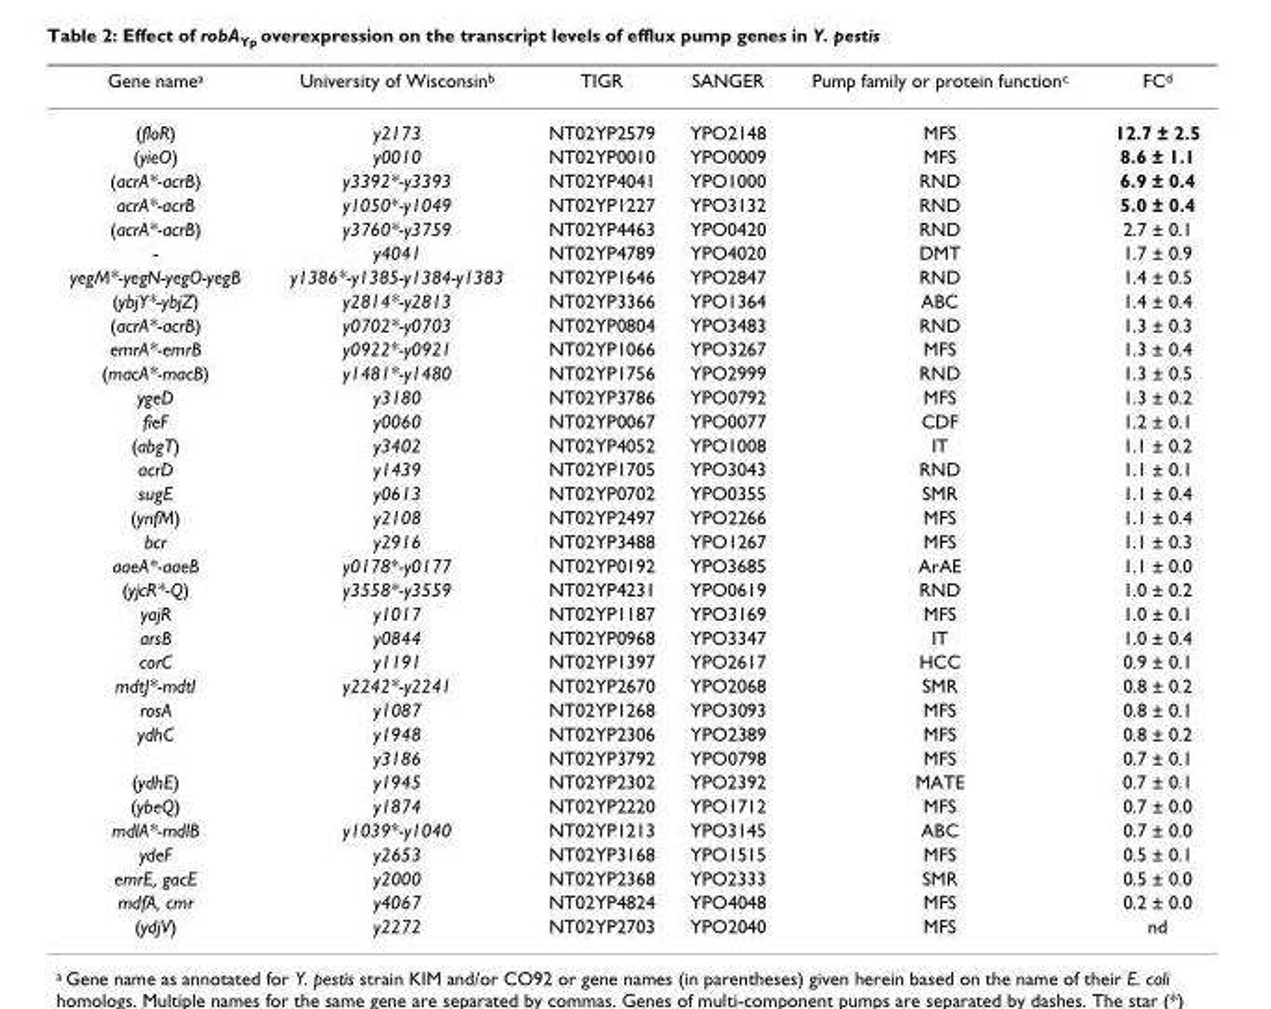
<table><thead><tr><td>Gene name<sup>a</sup></td><td>University of Wisconsin<sup>b</sup></td><td>TIGR</td><td>SANGER</td><td>Pump family or protein function<sup>c</sup></td><td>FC<sup>d</sup></td></tr></thead><tbody><tr><td>(floR)</td><td>y2173</td><td>NT02YP2579</td><td>YPO2148</td><td>MFS</td><td>12.7 ± 2.5</td></tr><tr><td>(yieO)</td><td>y0010</td><td>NT02YP0010</td><td>YPO0009</td><td>MFS</td><td>8.6 ± 1.1</td></tr><tr><td>(acrA*-acrB)</td><td>y3392*-y3393</td><td>NT02YP4041</td><td>YPO1000</td><td>RND</td><td>6.9 ± 0.4</td></tr><tr><td>acrA*-acrB</td><td>y1050*-y1049</td><td>NT02YP1227</td><td>YPO3132</td><td>RND</td><td>5.0 ± 0.4</td></tr><tr><td>(acrA*-acrB)</td><td>y3760*-y3759</td><td>NT02YP4463</td><td>YPO0420</td><td>RND</td><td>2.7 ± 0.1</td></tr><tr><td>-</td><td>y4041</td><td>NT02YP4789</td><td>YPO4020</td><td>DMT</td><td>1.7 ± 0.9</td></tr><tr><td>yegM*-yegN-yegO-yegB</td><td>y1386*-y1385-y1384-y1383</td><td>NT02YP1646</td><td>YPO2847</td><td>RND</td><td>1.4 ± 0.5</td></tr><tr><td>(ybjY*-ybjZ)</td><td>y2814*-y2813</td><td>NT02YP3366</td><td>YPO1364</td><td>ABC</td><td>1.4 ± 0.4</td></tr><tr><td>(acrA*-acrB)</td><td>y0702*-y0703</td><td>NT02YP0804</td><td>YPO3483</td><td>RND</td><td>1.3 ± 0.3</td></tr><tr><td>emrA*-emrB</td><td>y0922*-y0921</td><td>NT02YP1066</td><td>YPO3267</td><td>MFS</td><td>1.3 ± 0.4</td></tr><tr><td>(macA*-macB)</td><td>y1481*-y1480</td><td>NT02YP1756</td><td>YPO2999</td><td>RND</td><td>1.3 ± 0.5</td></tr><tr><td>ygeD</td><td>y3180</td><td>NT02YP3786</td><td>YPO0792</td><td>MFS</td><td>1.3 ± 0.2</td></tr><tr><td>fieF</td><td>y0060</td><td>NT02YP0067</td><td>YPO0077</td><td>CDF</td><td>1.2 ± 0.1</td></tr><tr><td>(abgT)</td><td>y3402</td><td>NT02YP4052</td><td>YPO1008</td><td>IT</td><td>1.1 ± 0.2</td></tr><tr><td>acrD</td><td>y1439</td><td>NT02YP1705</td><td>YPO3043</td><td>RND</td><td>1.1 ± 0.1</td></tr><tr><td>sugE</td><td>y0613</td><td>NT02YP0702</td><td>YPO0355</td><td>SMR</td><td>1.1 ± 0.4</td></tr><tr><td>(ynfM)</td><td>y2108</td><td>NT02YP2497</td><td>YPO2266</td><td>MFS</td><td>1.1 ± 0.4</td></tr><tr><td>bcr</td><td>y2916</td><td>NT02YP3488</td><td>YPO1267</td><td>MFS</td><td>1.1 ± 0.3</td></tr><tr><td>aaeA*-aaeB</td><td>y0178*-y0177</td><td>NT02YP0192</td><td>YPO3685</td><td>ArAE</td><td>1.1 ± 0.0</td></tr><tr><td>(yjcR*-Q)</td><td>y3558*-y3559</td><td>NT02YP4231</td><td>YPO0619</td><td>RND</td><td>1.0 ± 0.2</td></tr><tr><td>yajR</td><td>y1017</td><td>NT02YP1187</td><td>YPO3169</td><td>MFS</td><td>1.0 ± 0.1</td></tr><tr><td>arsB</td><td>y0844</td><td>NT02YP0968</td><td>YPO3347</td><td>IT</td><td>1.0 ± 0.4</td></tr><tr><td>corC</td><td>y1191</td><td>NT02YP1397</td><td>YPO2617</td><td>HCC</td><td>0.9 ± 0.1</td></tr><tr><td>mdtJ*-mdtI</td><td>y2242*-y2241</td><td>NT02YP2670</td><td>YPO2068</td><td>SMR</td><td>0.8 ± 0.2</td></tr><tr><td>rosA</td><td>y1087</td><td>NT02YP1268</td><td>YPO3093</td><td>MFS</td><td>0.8 ± 0.1</td></tr><tr><td rowspan="2">ydhC</td><td>y1948</td><td>NT02YP2306</td><td>YPO2389</td><td>MFS</td><td>0.8 ± 0.2</td></tr><tr><td>y3186</td><td>NT02YP3792</td><td>YPO0798</td><td>MFS</td><td>0.7 ± 0.1</td></tr><tr><td>(ydhE)</td><td>y1945</td><td>NT02YP2302</td><td>YPO2392</td><td>MATE</td><td>0.7 ± 0.1</td></tr><tr><td>(ybeQ)</td><td>y1874</td><td>NT02YP2220</td><td>YPO1712</td><td>MFS</td><td>0.7 ± 0.0</td></tr><tr><td>mdlA*-mdlB</td><td>y1039*-y1040</td><td>NT02YP1213</td><td>YPO3145</td><td>ABC</td><td>0.7 ± 0.0</td></tr><tr><td>ydeF</td><td>y2653</td><td>NT02YP3168</td><td>YPO1515</td><td>MFS</td><td>0.5 ± 0.1</td></tr><tr><td>emrE, gacE</td><td>y2000</td><td>NT02YP2368</td><td>YPO2333</td><td>SMR</td><td>0.5 ± 0.0</td></tr><tr><td>mdfA, cmr</td><td>y4067</td><td>NT02YP4824</td><td>YPO4048</td><td>MFS</td><td>0.2 ± 0.0</td></tr><tr><td>(ydjV)</td><td>y2272</td><td>NT02YP2703</td><td>YPO2040</td><td>MFS</td><td>nd</td></tr></tbody></table>